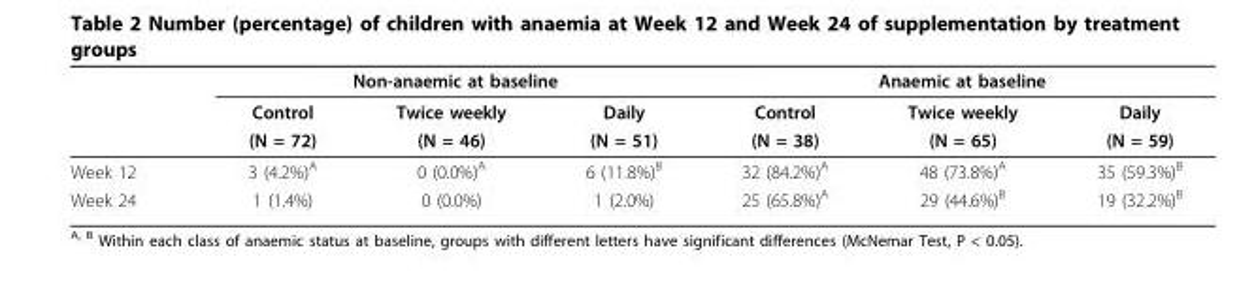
<table><thead><tr><td rowspan="3"></td><td colspan="3">Non-anaemic at baseline</td><td colspan="3">Anaemic at baseline</td></tr><tr><td rowspan="2">Control (N = 72)</td><td rowspan="2">Twice weekly (N = 46)</td><td rowspan="2">Daily (N = 51)</td><td rowspan="2">Control (N = 38)</td><td rowspan="2">Twice weekly (N = 65)</td><td rowspan="2">Daily (N = 59)</td></tr><tr></tr></thead><tbody><tr><td>Week 12</td><td>3 (4.2%)<sup>A</sup></td><td>0 (0.0%)<sup>A</sup></td><td>6 (11.8%)<sup>B</sup></td><td>32 (84.2%)<sup>A</sup></td><td>48 (73.8%)<sup>A</sup></td><td>35 (59.3%)<sup>B</sup></td></tr><tr><td>Week 24</td><td>1 (1.4%)</td><td>0 (0.0%)</td><td>1 (2.0%)</td><td>25 (65.8%)<sup>A</sup></td><td>29 (44.6%)<sup>B</sup></td><td>19 (32.2%)<sup>B</sup></td></tr></tbody></table>